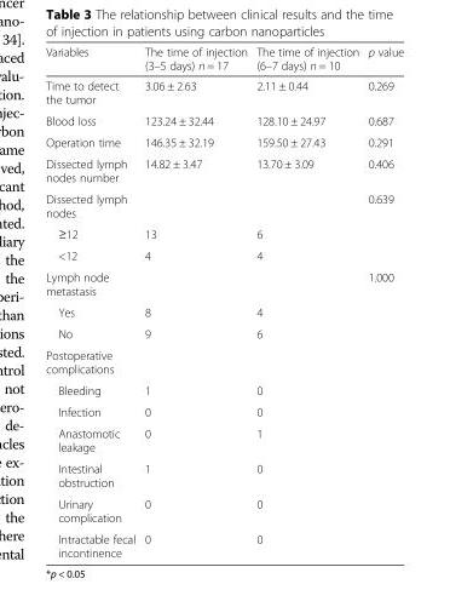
<table><thead><tr><td>Variables</td><td>The time of injection (3–5 days) n = 17</td><td>The time of injection (6–7 days) n = 10</td><td>p value</td></tr></thead><tbody><tr><td>Time to detect the tumor</td><td>3.06 ± 2.63</td><td>2.11 ± 0.44</td><td>0.269</td></tr><tr><td>Blood loss</td><td>123.24 ± 32.44</td><td>128.10 ± 24.97</td><td>0.687</td></tr><tr><td>Operation time</td><td>146.35 ± 32.19</td><td>159.50 ± 27.43</td><td>0.291</td></tr><tr><td>Dissected lymph nodes number</td><td>14.82 ± 3.47</td><td>13.70 ± 3.09</td><td>0.406</td></tr><tr><td>Dissected lymph nodes</td><td></td><td></td><td>0.639</td></tr><tr><td>≥12</td><td>13</td><td>6</td><td rowspan="2"></td></tr><tr><td>&lt;12</td><td>4</td><td>4</td></tr><tr><td>Lymph node metastasis</td><td></td><td></td><td>1.000</td></tr><tr><td>Yes</td><td>8</td><td>4</td><td rowspan="8"></td></tr><tr><td>No</td><td>9</td><td>6</td></tr><tr><td colspan="3">Postoperative complications</td></tr><tr><td>Bleeding</td><td>1</td><td>0</td></tr><tr><td>Infection</td><td>0</td><td>0</td></tr><tr><td>Anastomotic leakage</td><td>0</td><td>1</td></tr><tr><td>Intestinal obstruction</td><td>1</td><td>0</td></tr><tr><td>Urinary complication</td><td>0</td><td>0</td></tr><tr><td>Intractable fecal incontinence</td><td>0</td><td>0</td><td></td></tr></tbody></table>